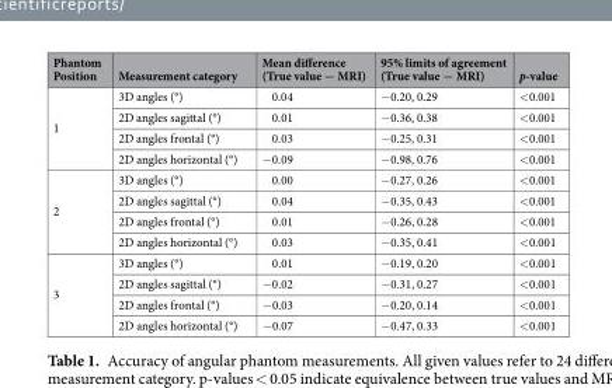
<table><thead><tr><td>Phantom Position</td><td>Measurement category</td><td>Mean difference (True value − MRI)</td><td>95% limits of agreement (True value − MRI)</td><td>p-value</td></tr></thead><tbody><tr><td rowspan="4">1</td><td>3D angles (°)</td><td>0.04</td><td>−0.20, 0.29</td><td>&lt;0.001</td></tr><tr><td>2D angles sagittal (°)</td><td>0.01</td><td>−0.36, 0.38</td><td>&lt;0.001</td></tr><tr><td>2D angles frontal (°)</td><td>0.03</td><td>−0.25, 0.31</td><td>&lt;0.001</td></tr><tr><td>2D angles horizontal (°)</td><td>−0.09</td><td>−0.98, 0.76</td><td>&lt;0.001</td></tr><tr><td rowspan="4">2</td><td>3D angles (°)</td><td>0.00</td><td>−0.27, 0.26</td><td>&lt;0.001</td></tr><tr><td>2D angles sagittal (°)</td><td>0.04</td><td>−0.35, 0.43</td><td>&lt;0.001</td></tr><tr><td>2D angles frontal (°)</td><td>0.01</td><td>−0.26, 0.28</td><td>&lt;0.001</td></tr><tr><td>2D angles horizontal (°)</td><td>0.03</td><td>−0.35, 0.41</td><td>&lt;0.001</td></tr><tr><td rowspan="4">3</td><td>3D angles (°)</td><td>0.01</td><td>−0.19, 0.20</td><td>&lt;0.001</td></tr><tr><td>2D angles sagittal (°)</td><td>−0.02</td><td>−0.31, 0.27</td><td>&lt;0.001</td></tr><tr><td>2D angles frontal (°)</td><td>−0.03</td><td>−0.20, 0.14</td><td>&lt;0.001</td></tr><tr><td>2D angles horizontal (°)</td><td>−0.07</td><td>−0.47, 0.33</td><td>&lt;0.001</td></tr></tbody></table>